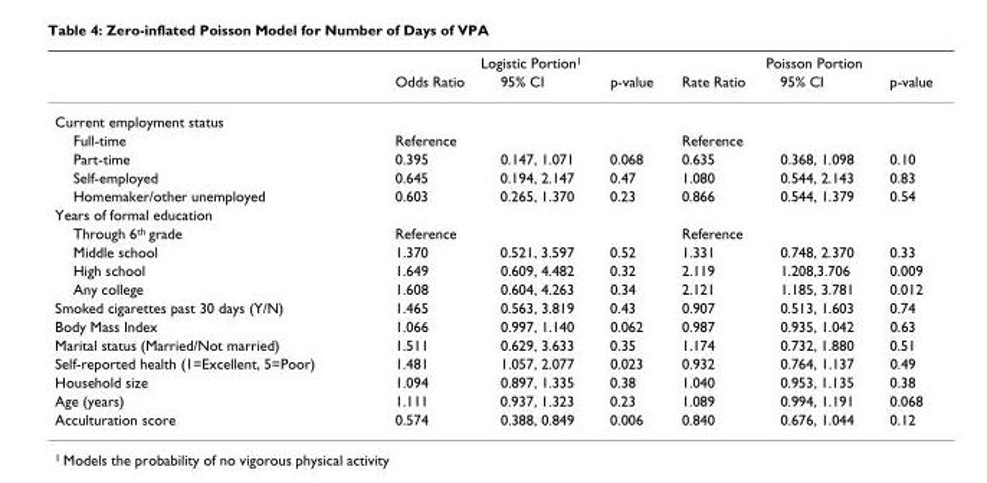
<table><thead><tr><td rowspan="2"></td><td colspan="3">Logistic Portion<sup>1</sup></td><td colspan="3">Poisson Portion</td></tr><tr><td>Odds Ratio</td><td>95% CI</td><td>p-value</td><td>Rate Ratio</td><td>95% CI</td><td>p-value</td></tr></thead><tbody><tr><td colspan="7">Current employment status</td></tr><tr><td>Full-time</td><td>Reference</td><td></td><td></td><td>Reference</td><td></td><td></td></tr><tr><td>Part-time</td><td>0.395</td><td>0.147, 1.071</td><td>0.068</td><td>0.635</td><td>0.368, 1.098</td><td>0.10</td></tr><tr><td>Self-employed</td><td>0.645</td><td>0.194, 2.147</td><td>0.47</td><td>1.080</td><td>0.544, 2.143</td><td>0.83</td></tr><tr><td>Homemaker/other unemployed</td><td>0.603</td><td>0.265, 1.370</td><td>0.23</td><td>0.866</td><td>0.544, 1.379</td><td>0.54</td></tr><tr><td colspan="7">Years of formal education</td></tr><tr><td>Through 6<sup>th</sup> grade</td><td>Reference</td><td></td><td></td><td>Reference</td><td></td><td></td></tr><tr><td>Middle school</td><td>1.370</td><td>0.521, 3.597</td><td>0.52</td><td>1.331</td><td>0.748, 2.370</td><td>0.33</td></tr><tr><td>High school</td><td>1.649</td><td>0.609, 4.482</td><td>0.32</td><td>2.119</td><td>1.208,3.706</td><td>0.009</td></tr><tr><td>Any college</td><td>1.608</td><td>0.604, 4.263</td><td>0.34</td><td>2.121</td><td>1.185, 3.781</td><td>0.012</td></tr><tr><td>Smoked cigarettes past 30 days (Y/N)</td><td>1.465</td><td>0.563, 3.819</td><td>0.43</td><td>0.907</td><td>0.513, 1.603</td><td>0.74</td></tr><tr><td>Body Mass Index</td><td>1.066</td><td>0.997, 1.140</td><td>0.062</td><td>0.987</td><td>0.935, 1.042</td><td>0.63</td></tr><tr><td>Marital status (Married/Not married)</td><td>1.511</td><td>0.629, 3.633</td><td>0.35</td><td>1.174</td><td>0.732, 1.880</td><td>0.51</td></tr><tr><td>Self-reported health (1=Excellent, 5=Poor)</td><td>1.481</td><td>1.057, 2.077</td><td>0.023</td><td>0.932</td><td>0.764, 1.137</td><td>0.49</td></tr><tr><td>Household size</td><td>1.094</td><td>0.897, 1.335</td><td>0.38</td><td>1.040</td><td>0.953, 1.135</td><td>0.38</td></tr><tr><td>Age (years)</td><td>1.111</td><td>0.937, 1.323</td><td>0.23</td><td>1.089</td><td>0.994, 1.191</td><td>0.068</td></tr><tr><td>Acculturation score</td><td>0.574</td><td>0.388, 0.849</td><td>0.006</td><td>0.840</td><td>0.676, 1.044</td><td>0.12</td></tr></tbody></table>